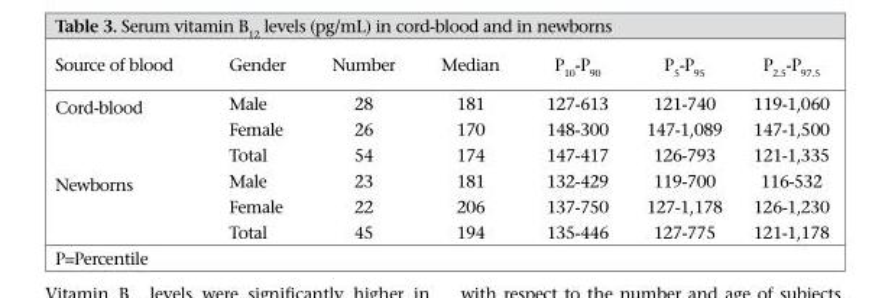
<table><thead><tr><td>Source of blood</td><td>Gender</td><td>Number</td><td>Median</td><td>P<sub>10</sub>-P<sub>90</sub></td><td>P<sub>5</sub>-P<sub>95</sub></td><td>P<sub>2.5</sub>-P<sub>97.5</sub></td></tr></thead><tbody><tr><td rowspan="3">Cord-blood</td><td>Male</td><td>28</td><td>181</td><td>127-613</td><td>121-740</td><td>119-1,060</td></tr><tr><td>Female</td><td>26</td><td>170</td><td>148-300</td><td>147-1,089</td><td>147-1,500</td></tr><tr><td>Total</td><td>54</td><td>174</td><td>147-417</td><td>126-793</td><td>121-1,335</td></tr><tr><td rowspan="3">Newborns</td><td>Male</td><td>23</td><td>181</td><td>132-429</td><td>119-700</td><td>116-532</td></tr><tr><td>Female</td><td>22</td><td>206</td><td>137-750</td><td>127-1,178</td><td>126-1,230</td></tr><tr><td>Total</td><td>45</td><td>194</td><td>135-446</td><td>127-775</td><td>121-1,178</td></tr></tbody></table>